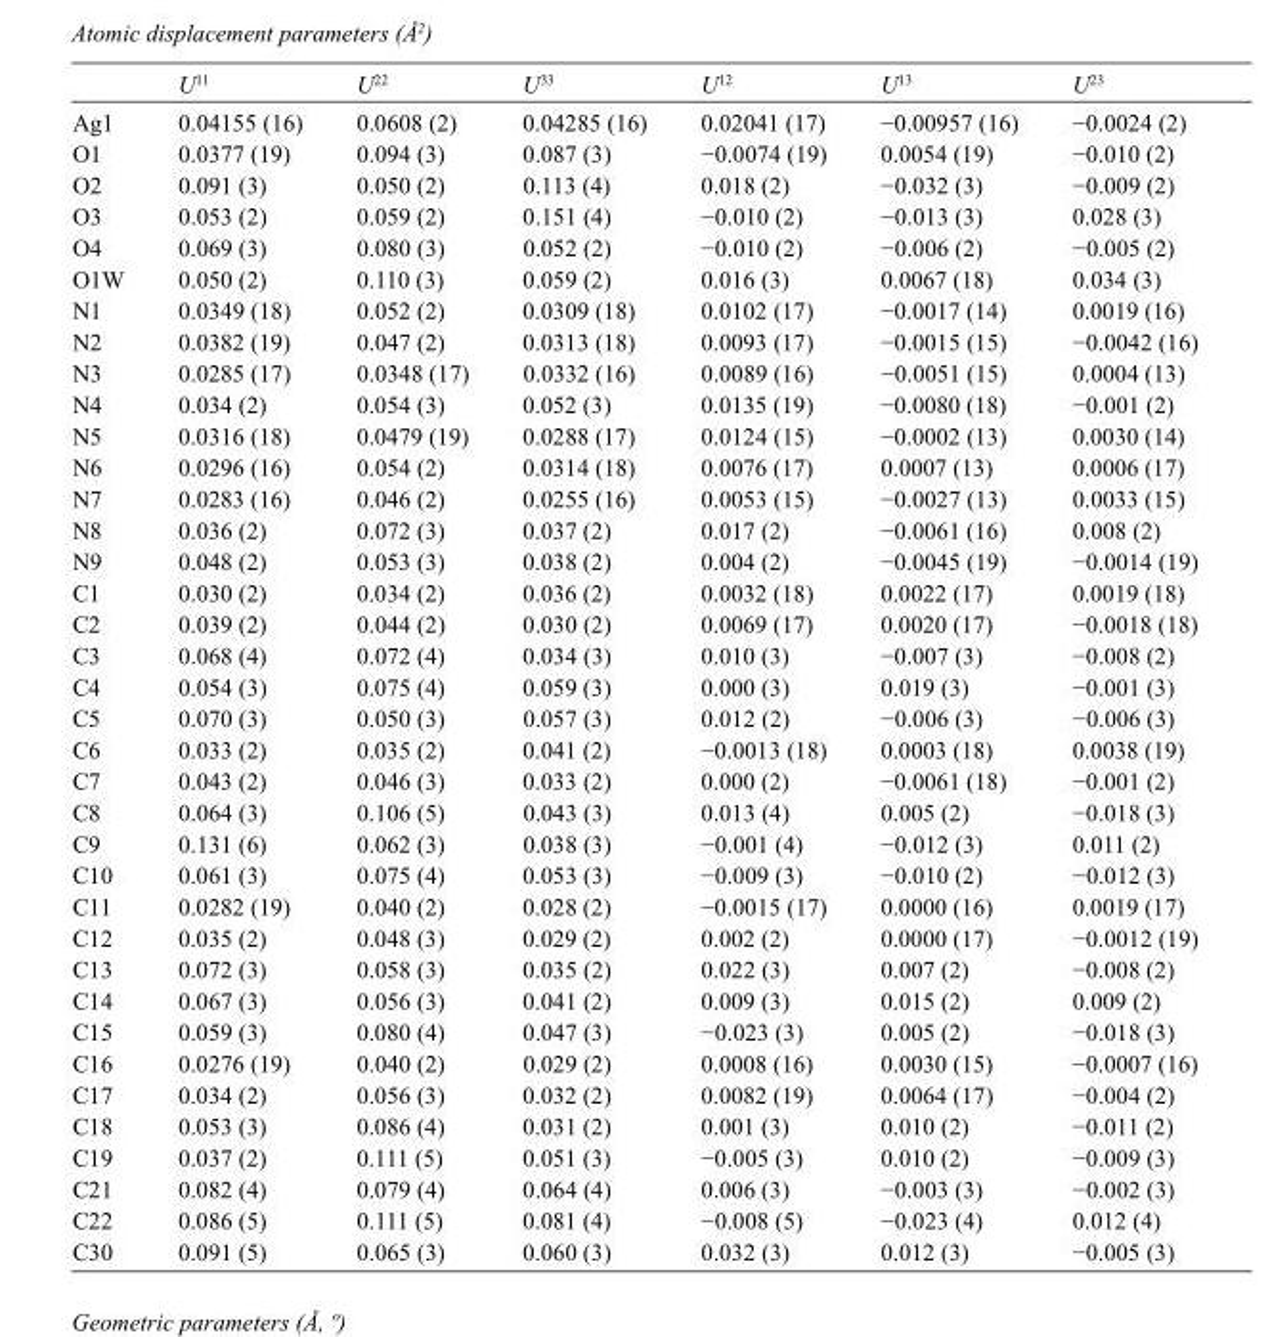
<table><thead><tr><td></td><td>U<sup>11</sup></td><td>U<sup>22</sup></td><td>U<sup>33</sup></td><td>U<sup>12</sup></td><td>U<sup>13</sup></td><td>U<sup>23</sup></td></tr></thead><tbody><tr><td>Ag1</td><td>0.04155 (16)</td><td>0.0608 (2)</td><td>0.04285 (16)</td><td>0.02041 (17)</td><td>−0.00957 (16)</td><td>−0.0024 (2)</td></tr><tr><td>O1</td><td>0.0377 (19)</td><td>0.094 (3)</td><td>0.087 (3)</td><td>−0.0074 (19)</td><td>0.0054 (19)</td><td>−0.010 (2)</td></tr><tr><td>O2</td><td>0.091 (3)</td><td>0.050 (2)</td><td>0.113 (4)</td><td>0.018 (2)</td><td>−0.032 (3)</td><td>−0.009 (2)</td></tr><tr><td>O3</td><td>0.053 (2)</td><td>0.059 (2)</td><td>0.151 (4)</td><td>−0.010 (2)</td><td>−0.013 (3)</td><td>0.028 (3)</td></tr><tr><td>O4</td><td>0.069 (3)</td><td>0.080 (3)</td><td>0.052 (2)</td><td>−0.010 (2)</td><td>−0.006 (2)</td><td>−0.005 (2)</td></tr><tr><td>O1W</td><td>0.050 (2)</td><td>0.110 (3)</td><td>0.059 (2)</td><td>0.016 (3)</td><td>0.0067 (18)</td><td>0.034 (3)</td></tr><tr><td>N1</td><td>0.0349 (18)</td><td>0.052 (2)</td><td>0.0309 (18)</td><td>0.0102 (17)</td><td>−0.0017 (14)</td><td>0.0019 (16)</td></tr><tr><td>N2</td><td>0.0382 (19)</td><td>0.047 (2)</td><td>0.0313 (18)</td><td>0.0093 (17)</td><td>−0.0015 (15)</td><td>−0.0042 (16)</td></tr><tr><td>N3</td><td>0.0285 (17)</td><td>0.0348 (17)</td><td>0.0332 (16)</td><td>0.0089 (16)</td><td>−0.0051 (15)</td><td>0.0004 (13)</td></tr><tr><td>N4</td><td>0.034 (2)</td><td>0.054 (3)</td><td>0.052 (3)</td><td>0.0135 (19)</td><td>−0.0080 (18)</td><td>−0.001 (2)</td></tr><tr><td>N5</td><td>0.0316 (18)</td><td>0.0479 (19)</td><td>0.0288 (17)</td><td>0.0124 (15)</td><td>−0.0002 (13)</td><td>0.0030 (14)</td></tr><tr><td>N6</td><td>0.0296 (16)</td><td>0.054 (2)</td><td>0.0314 (18)</td><td>0.0076 (17)</td><td>0.0007 (13)</td><td>0.0006 (17)</td></tr><tr><td>N7</td><td>0.0283 (16)</td><td>0.046 (2)</td><td>0.0255 (16)</td><td>0.0053 (15)</td><td>−0.0027 (13)</td><td>0.0033 (15)</td></tr><tr><td>N8</td><td>0.036 (2)</td><td>0.072 (3)</td><td>0.037 (2)</td><td>0.017 (2)</td><td>−0.0061 (16)</td><td>0.008 (2)</td></tr><tr><td>N9</td><td>0.048 (2)</td><td>0.053 (3)</td><td>0.038 (2)</td><td>0.004 (2)</td><td>−0.0045 (19)</td><td>−0.0014 (19)</td></tr><tr><td>C1</td><td>0.030 (2)</td><td>0.034 (2)</td><td>0.036 (2)</td><td>0.0032 (18)</td><td>0.0022 (17)</td><td>0.0019 (18)</td></tr><tr><td>C2</td><td>0.039 (2)</td><td>0.044 (2)</td><td>0.030 (2)</td><td>0.0069 (17)</td><td>0.0020 (17)</td><td>−0.0018 (18)</td></tr><tr><td>C3</td><td>0.068 (4)</td><td>0.072 (4)</td><td>0.034 (3)</td><td>0.010 (3)</td><td>−0.007 (3)</td><td>−0.008 (2)</td></tr><tr><td>C4</td><td>0.054 (3)</td><td>0.075 (4)</td><td>0.059 (3)</td><td>0.000 (3)</td><td>0.019 (3)</td><td>−0.001 (3)</td></tr><tr><td>C5</td><td>0.070 (3)</td><td>0.050 (3)</td><td>0.057 (3)</td><td>0.012 (2)</td><td>−0.006 (3)</td><td>−0.006 (3)</td></tr><tr><td>C6</td><td>0.033 (2)</td><td>0.035 (2)</td><td>0.041 (2)</td><td>−0.0013 (18)</td><td>0.0003 (18)</td><td>0.0038 (19)</td></tr><tr><td>C7</td><td>0.043 (2)</td><td>0.046 (3)</td><td>0.033 (2)</td><td>0.000 (2)</td><td>−0.0061 (18)</td><td>−0.001 (2)</td></tr><tr><td>C8</td><td>0.064 (3)</td><td>0.106 (5)</td><td>0.043 (3)</td><td>0.013 (4)</td><td>0.005 (2)</td><td>−0.018 (3)</td></tr><tr><td>C9</td><td>0.131 (6)</td><td>0.062 (3)</td><td>0.038 (3)</td><td>−0.001 (4)</td><td>−0.012 (3)</td><td>0.011 (2)</td></tr><tr><td>C10</td><td>0.061 (3)</td><td>0.075 (4)</td><td>0.053 (3)</td><td>−0.009 (3)</td><td>−0.010 (2)</td><td>−0.012 (3)</td></tr><tr><td>C11</td><td>0.0282 (19)</td><td>0.040 (2)</td><td>0.028 (2)</td><td>−0.0015 (17)</td><td>0.0000 (16)</td><td>0.0019 (17)</td></tr><tr><td>C12</td><td>0.035 (2)</td><td>0.048 (3)</td><td>0.029 (2)</td><td>0.002 (2)</td><td>0.0000 (17)</td><td>−0.0012 (19)</td></tr><tr><td>C13</td><td>0.072 (3)</td><td>0.058 (3)</td><td>0.035 (2)</td><td>0.022 (3)</td><td>0.007 (2)</td><td>−0.008 (2)</td></tr><tr><td>C14</td><td>0.067 (3)</td><td>0.056 (3)</td><td>0.041 (2)</td><td>0.009 (3)</td><td>0.015 (2)</td><td>0.009 (2)</td></tr><tr><td>C15</td><td>0.059 (3)</td><td>0.080 (4)</td><td>0.047 (3)</td><td>−0.023 (3)</td><td>0.005 (2)</td><td>−0.018 (3)</td></tr><tr><td>C16</td><td>0.0276 (19)</td><td>0.040 (2)</td><td>0.029 (2)</td><td>0.0008 (16)</td><td>0.0030 (15)</td><td>−0.0007 (16)</td></tr><tr><td>C17</td><td>0.034 (2)</td><td>0.056 (3)</td><td>0.032 (2)</td><td>0.0082 (19)</td><td>0.0064 (17)</td><td>−0.004 (2)</td></tr><tr><td>C18</td><td>0.053 (3)</td><td>0.086 (4)</td><td>0.031 (2)</td><td>0.001 (3)</td><td>0.010 (2)</td><td>−0.011 (2)</td></tr><tr><td>C19</td><td>0.037 (2)</td><td>0.111 (5)</td><td>0.051 (3)</td><td>−0.005 (3)</td><td>0.010 (2)</td><td>−0.009 (3)</td></tr><tr><td>C21</td><td>0.082 (4)</td><td>0.079 (4)</td><td>0.064 (4)</td><td>0.006 (3)</td><td>−0.003 (3)</td><td>−0.002 (3)</td></tr><tr><td>C22</td><td>0.086 (5)</td><td>0.111 (5)</td><td>0.081 (4)</td><td>−0.008 (5)</td><td>−0.023 (4)</td><td>0.012 (4)</td></tr><tr><td>C30</td><td>0.091 (5)</td><td>0.065 (3)</td><td>0.060 (3)</td><td>0.032 (3)</td><td>0.012 (3)</td><td>−0.005 (3)</td></tr></tbody></table>